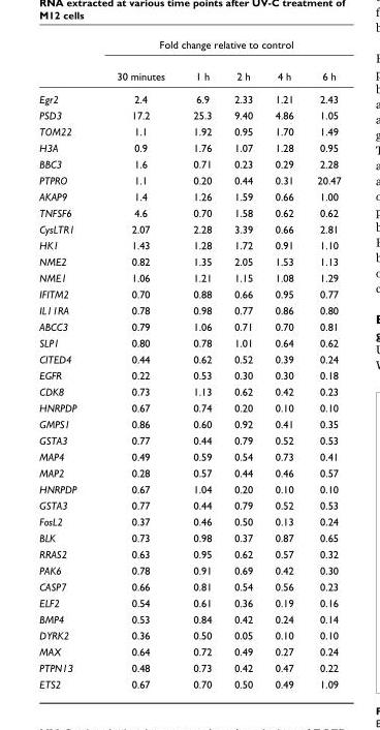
<table><thead><tr><td rowspan="2"></td><td colspan="5">Fold change relative to control</td></tr><tr><td>30 minutes</td><td>1 h</td><td>2 h</td><td>4 h</td><td>6 h</td></tr></thead><tbody><tr><td>Egr2</td><td>2.4</td><td>6.9</td><td>2.33</td><td>1.21</td><td>2.43</td></tr><tr><td>PSD3</td><td>17.2</td><td>25.3</td><td>9.40</td><td>4.86</td><td>1.05</td></tr><tr><td>TOM22</td><td>1.1</td><td>1.92</td><td>0.95</td><td>1.70</td><td>1.49</td></tr><tr><td>H3A</td><td>0.9</td><td>1.76</td><td>1.07</td><td>1.28</td><td>0.95</td></tr><tr><td>BBC3</td><td>1.6</td><td>0.71</td><td>0.23</td><td>0.29</td><td>2.28</td></tr><tr><td>PTPRO</td><td>1.1</td><td>0.20</td><td>0.44</td><td>0.31</td><td>20.47</td></tr><tr><td>AKAP9</td><td>1.4</td><td>1.26</td><td>1.59</td><td>0.66</td><td>1.00</td></tr><tr><td>TNFSF6</td><td>4.6</td><td>0.70</td><td>1.58</td><td>0.62</td><td>0.62</td></tr><tr><td>CysLTR1</td><td>2.07</td><td>2.28</td><td>3.39</td><td>0.66</td><td>2.81</td></tr><tr><td>HK1</td><td>1.43</td><td>1.28</td><td>1.72</td><td>0.91</td><td>1.10</td></tr><tr><td>NME2</td><td>0.82</td><td>1.35</td><td>2.05</td><td>1.53</td><td>1.13</td></tr><tr><td>NME1</td><td>1.06</td><td>1.21</td><td>1.15</td><td>1.08</td><td>1.29</td></tr><tr><td>IFITM2</td><td>0.70</td><td>0.88</td><td>0.66</td><td>0.95</td><td>0.77</td></tr><tr><td>IL11RA</td><td>0.78</td><td>0.98</td><td>0.77</td><td>0.86</td><td>0.80</td></tr><tr><td>ABCC3</td><td>0.79</td><td>1.06</td><td>0.71</td><td>0.70</td><td>0.81</td></tr><tr><td>SLP1</td><td>0.80</td><td>0.78</td><td>1.01</td><td>0.64</td><td>0.62</td></tr><tr><td>CITED4</td><td>0.44</td><td>0.62</td><td>0.52</td><td>0.39</td><td>0.24</td></tr><tr><td>EGFR</td><td>0.22</td><td>0.53</td><td>0.30</td><td>0.30</td><td>0.18</td></tr><tr><td>CDK8</td><td>0.73</td><td>1.13</td><td>0.62</td><td>0.42</td><td>0.23</td></tr><tr><td>HNRPDP</td><td>0.67</td><td>0.74</td><td>0.20</td><td>0.10</td><td>0.10</td></tr><tr><td>GMPS1</td><td>0.86</td><td>0.60</td><td>0.92</td><td>0.41</td><td>0.35</td></tr><tr><td>GSTA3</td><td>0.77</td><td>0.44</td><td>0.79</td><td>0.52</td><td>0.53</td></tr><tr><td>MAP4</td><td>0.49</td><td>0.59</td><td>0.54</td><td>0.73</td><td>0.41</td></tr><tr><td>MAP2</td><td>0.28</td><td>0.57</td><td>0.44</td><td>0.46</td><td>0.57</td></tr><tr><td>HNRPDP</td><td>0.67</td><td>1.04</td><td>0.20</td><td>0.10</td><td>0.10</td></tr><tr><td>GSTA3</td><td>0.77</td><td>0.44</td><td>0.79</td><td>0.52</td><td>0.53</td></tr><tr><td>FosL2</td><td>0.37</td><td>0.46</td><td>0.50</td><td>0.13</td><td>0.24</td></tr><tr><td>BLK</td><td>0.73</td><td>0.98</td><td>0.37</td><td>0.87</td><td>0.65</td></tr><tr><td>RRAS2</td><td>0.63</td><td>0.95</td><td>0.62</td><td>0.57</td><td>0.32</td></tr><tr><td>PAK6</td><td>0.78</td><td>0.91</td><td>0.69</td><td>0.42</td><td>0.30</td></tr><tr><td>CASP7</td><td>0.66</td><td>0.81</td><td>0.54</td><td>0.56</td><td>0.23</td></tr><tr><td>ELF2</td><td>0.54</td><td>0.61</td><td>0.36</td><td>0.19</td><td>0.16</td></tr><tr><td>BMP4</td><td>0.53</td><td>0.84</td><td>0.42</td><td>0.24</td><td>0.14</td></tr><tr><td>DYRK2</td><td>0.36</td><td>0.50</td><td>0.05</td><td>0.10</td><td>0.10</td></tr><tr><td>MAX</td><td>0.64</td><td>0.72</td><td>0.49</td><td>0.27</td><td>0.24</td></tr><tr><td>PTPN13</td><td>0.48</td><td>0.73</td><td>0.42</td><td>0.47</td><td>0.22</td></tr><tr><td>ETS2</td><td>0.67</td><td>0.70</td><td>0.50</td><td>0.49</td><td>1.09</td></tr></tbody></table>